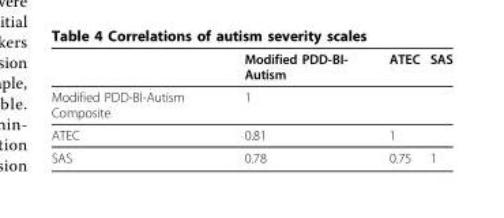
<table><thead><tr><td></td><td>Modified PDD-BI- Autism</td><td>ATEC</td><td>SAS</td></tr></thead><tbody><tr><td>Modified PDD-BI-Autism Composite</td><td>1</td><td></td><td></td></tr><tr><td>ATEC</td><td>0.81</td><td>1</td><td></td></tr><tr><td>SAS</td><td>0.78</td><td>0.75</td><td>1</td></tr></tbody></table>